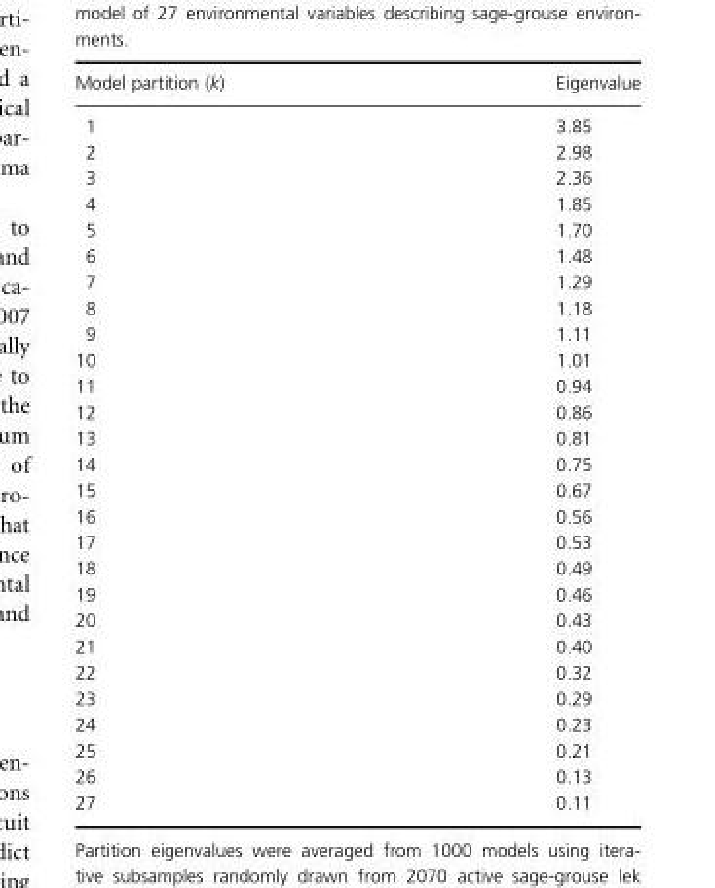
<table><thead><tr><td>Model partition (k)</td><td>Eigenvalue</td></tr></thead><tbody><tr><td>1</td><td>3.85</td></tr><tr><td>2</td><td>2.98</td></tr><tr><td>3</td><td>2.36</td></tr><tr><td>4</td><td>1.85</td></tr><tr><td>5</td><td>1.70</td></tr><tr><td>6</td><td>1.48</td></tr><tr><td>7</td><td>1.29</td></tr><tr><td>8</td><td>1.18</td></tr><tr><td>9</td><td>1.11</td></tr><tr><td>10</td><td>1.01</td></tr><tr><td>11</td><td>0.94</td></tr><tr><td>12</td><td>0.86</td></tr><tr><td>13</td><td>0.81</td></tr><tr><td>14</td><td>0.75</td></tr><tr><td>15</td><td>0.67</td></tr><tr><td>16</td><td>0.56</td></tr><tr><td>17</td><td>0.53</td></tr><tr><td>18</td><td>0.49</td></tr><tr><td>19</td><td>0.46</td></tr><tr><td>20</td><td>0.43</td></tr><tr><td>21</td><td>0.40</td></tr><tr><td>22</td><td>0.32</td></tr><tr><td>23</td><td>0.29</td></tr><tr><td>24</td><td>0.23</td></tr><tr><td>25</td><td>0.21</td></tr><tr><td>26</td><td>0.13</td></tr><tr><td>27</td><td>0.11</td></tr></tbody></table>